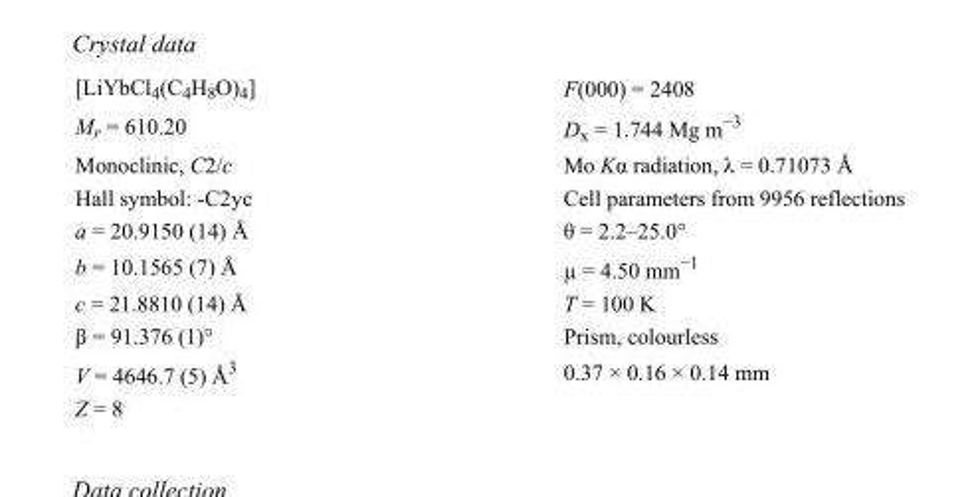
<table><tbody><tr><td>[LiYbCl<sub>4</sub>(C<sub>4</sub>H<sub>8</sub>O)<sub>4</sub>]</td><td>F(000) = 2408</td></tr><tr><td>M<sub>r</sub> = 610.20</td><td>D<sub>x</sub> = 1.744 Mg m<sup>−3</sup></td></tr><tr><td>Monoclinic, C2/c</td><td>Mo Kα radiation, λ = 0.71073 Å</td></tr><tr><td>Hall symbol: -C2yc</td><td>Cell parameters from 9956 reflections</td></tr><tr><td>a = 20.9150 (14) Å</td><td>θ = 2.2–25.0°</td></tr><tr><td>b = 10.1565 (7) Å</td><td>µ = 4.50 mm<sup>−1</sup></td></tr><tr><td>c = 21.8810 (14) Å</td><td>T = 100 K</td></tr><tr><td>β = 91.376 (1)°</td><td>Prism, colourless</td></tr><tr><td>V = 4646.7 (5) Å<sup>3</sup></td><td>0.37 × 0.16 × 0.14 mm</td></tr><tr><td>Z = 8</td><td></td></tr></tbody></table>